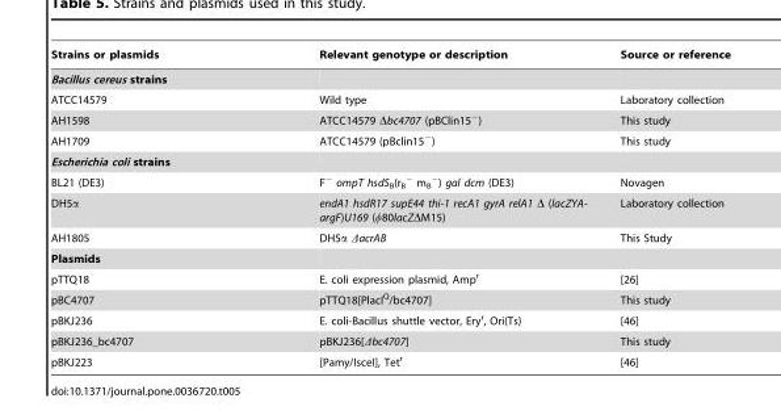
<table><thead><tr><td>Strains or plasmids</td><td>Relevant genotype or description</td><td>Source or reference</td></tr></thead><tbody><tr><td colspan="3">Bacillus cereus strains</td></tr><tr><td>ATCC14579</td><td>Wild type</td><td>Laboratory collection</td></tr><tr><td>AH1598</td><td>ATCC14579 Δbc4707 (pBClin15<sup>−</sup>)</td><td>This study</td></tr><tr><td>AH1709</td><td>ATCC14579 (pBclin15<sup>−</sup>)</td><td>This study</td></tr><tr><td colspan="3">Escherichia coli strains</td></tr><tr><td>BL21 (DE3)</td><td>F<sup>−</sup> ompT hsdS<sub>B</sub>(r<sub>B</sub> <sup>−</sup> m<sub>B</sub> <sup>−</sup>) gal dcm (DE3)</td><td>Novagen</td></tr><tr><td>DH5α</td><td>endA1 hsdR17 supE44 thi-1 recA1 gyrA relA1 Δ (lacZYA- argF)U169 (φ80lacZΔM15)</td><td>Laboratory collection</td></tr><tr><td>AH1805</td><td>DH5α ΔacrAB</td><td>This Study</td></tr><tr><td colspan="3">Plasmids</td></tr><tr><td>pTTQ18</td><td>E. coli expression plasmid, Amp<sup>r</sup></td><td>[26]</td></tr><tr><td>pBC4707</td><td>pTTQ18[PlacI<sup>Q</sup>/bc4707]</td><td>This study</td></tr><tr><td>pBKJ236</td><td>E. coli-Bacillus shuttle vector, Ery<sup>r</sup>, Ori(Ts)</td><td>[46]</td></tr><tr><td>pBKJ236_bc4707</td><td>pBKJ236[Δbc4707]</td><td>This study</td></tr><tr><td>pBKJ223</td><td>[Pamy/IsceI], Tet<sup>r</sup></td><td>[46]</td></tr></tbody></table>